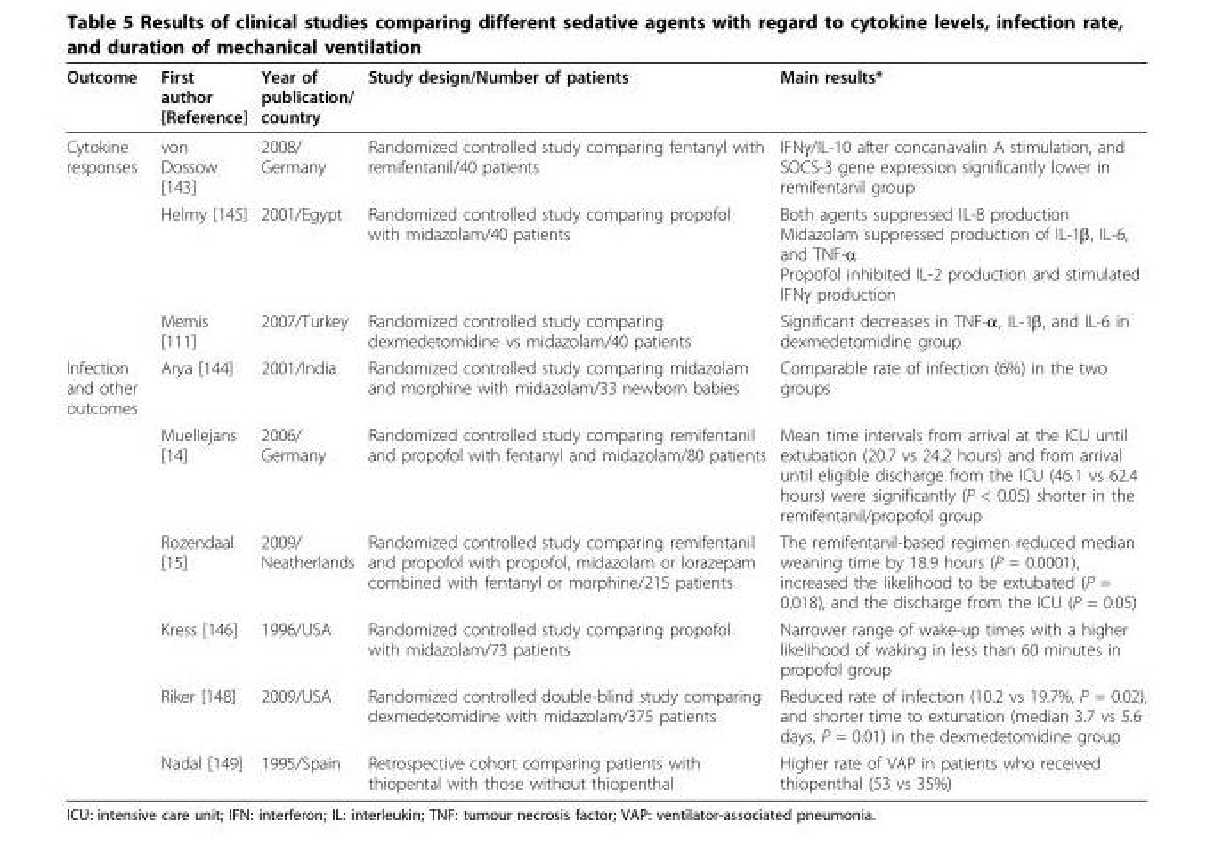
<table><thead><tr><td>Outcome</td><td>First author [Reference]</td><td>Year of publication/ country</td><td>Study design/Number of patients</td><td>Main results*</td></tr></thead><tbody><tr><td rowspan="3">Cytokine responses</td><td>von Dossow [143]</td><td>2008/ Germany</td><td>Randomized controlled study comparing fentanyl with remifentanil/40 patients</td><td>IFNγ/IL-10 after concanavalin A stimulation, and SOCS-3 gene expression significantly lower in remifentanil group</td></tr><tr><td>Helmy [145]</td><td>2001/Egypt</td><td>Randomized controlled study comparing propofol with midazolam/40 patients</td><td>Both agents suppressed IL-8 production Midazolam suppressed production of IL-1β, IL-6, and TNF-α Propofol inhibited IL-2 production and stimulated IFNγ production</td></tr><tr><td>Memis [111]</td><td>2007/Turkey</td><td>Randomized controlled study comparing dexmedetomidine vs midazolam/40 patients</td><td>Significant decreases in TNF-α, IL-1β, and IL-6 in dexmedetomidine group</td></tr><tr><td rowspan="6">Infection and other outcomes</td><td>Arya [144]</td><td>2001/India</td><td>Randomized controlled study comparing midazolam and morphine with midazolam/33 newborn babies</td><td>Comparable rate of infection (6%) in the two groups</td></tr><tr><td>Muellejans [14]</td><td>2006/ Germany</td><td>Randomized controlled study comparing remifentanil and propofol with fentanyl and midazolam/80 patients</td><td>Mean time intervals from arrival at the ICU until extubation (20.7 vs 24.2 hours) and from arrival until eligible discharge from the ICU (46.1 vs 62.4 hours) were significantly (P &lt; 0.05) shorter in the remifentanil/propofol group</td></tr><tr><td>Rozendaal [15]</td><td>2009/ Neatherlands</td><td>Randomized controlled study comparing remifentanil and propofol with propofol, midazolam or lorazepam combined with fentanyl or morphine/215 patients</td><td>The remifentanil-based regimen reduced median weaning time by 18.9 hours (P = 0.0001), increased the likelihood to be extubated (P = 0.018), and the discharge from the ICU (P = 0.05)</td></tr><tr><td>Kress [146]</td><td>1996/USA</td><td>Randomized controlled study comparing propofol with midazolam/73 patients</td><td>Narrower range of wake-up times with a higher likelihood of waking in less than 60 minutes in propofol group</td></tr><tr><td>Riker [148]</td><td>2009/USA</td><td>Randomized controlled double-blind study comparing dexmedetomidine with midazolam/375 patients</td><td>Reduced rate of infection (10.2 vs 19.7%, P = 0.02), and shorter time to extunation (median 3.7 vs 5.6 days, P = 0.01) in the dexmedetomidine group</td></tr><tr><td>Nadal [149]</td><td>1995/Spain</td><td>Retrospective cohort comparing patients with thiopental with those without thiopenthal</td><td>Higher rate of VAP in patients who received thiopenthal (53 vs 35%)</td></tr></tbody></table>